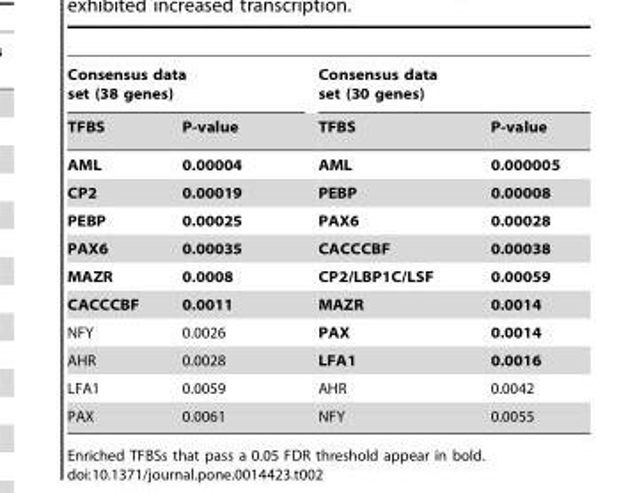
<table><thead><tr><td colspan="2">Consensus data set (38 genes)</td><td colspan="2">Consensus data set (30 genes)</td></tr><tr><td>TFBS</td><td>P-value</td><td>TFBS</td><td>P-value</td></tr></thead><tbody><tr><td>AML</td><td>0.00004</td><td>AML</td><td>0.000005</td></tr><tr><td>CP2</td><td>0.00019</td><td>PEBP</td><td>0.00008</td></tr><tr><td>PEBP</td><td>0.00025</td><td>PAX6</td><td>0.00028</td></tr><tr><td>PAX6</td><td>0.00035</td><td>CACCCBF</td><td>0.00038</td></tr><tr><td>MAZR</td><td>0.0008</td><td>CP2/LBP1C/LSF</td><td>0.00059</td></tr><tr><td>CACCCBF</td><td>0.0011</td><td>MAZR</td><td>0.0014</td></tr><tr><td>NFY</td><td>0.0026</td><td>PAX</td><td>0.0014</td></tr><tr><td>AHR</td><td>0.0028</td><td>LFA1</td><td>0.0016</td></tr><tr><td>LFA1</td><td>0.0059</td><td>AHR</td><td>0.0042</td></tr><tr><td>PAX</td><td>0.0061</td><td>NFY</td><td>0.0055</td></tr></tbody></table>